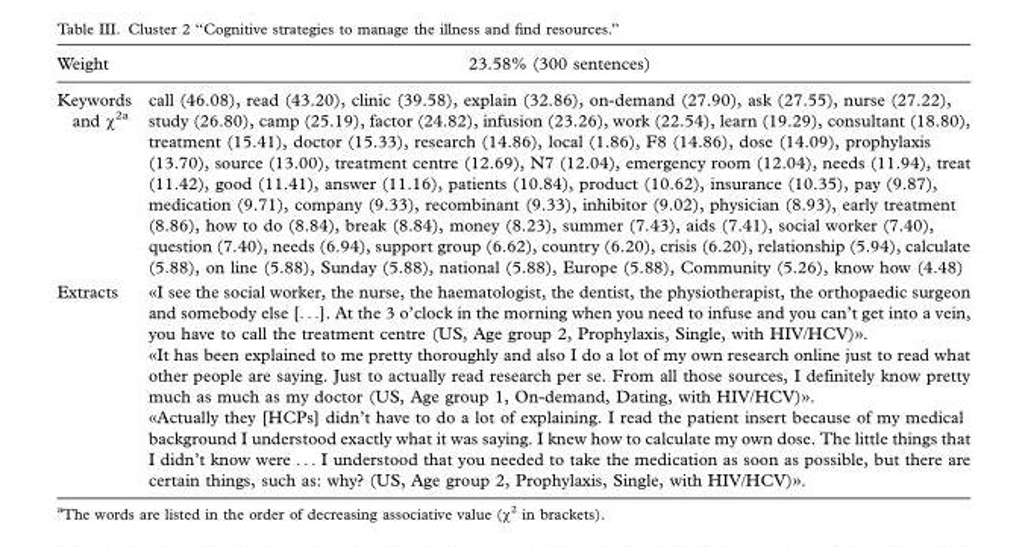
<table><thead><tr><td>Weight</td><td>23.58% (300 sentences)</td></tr></thead><tbody><tr><td>Keywords and χ<sup>2</sup>a</td><td>call (46.08), read (43.20), clinic (39.58), explain (32.86), on-demand (27.90), ask (27.55), nurse (27.22), study (26.80), camp (25.19), factor (24.82), infusion (23.26), work (22.54), learn (19.29), consultant (18.80), treatment (15.41), doctor (15.33), research (14.86), local (1.86), F8 (14.86), dose (14.09), prophylaxis (13.70), source (13.00), treatment centre (12.69), N7 (12.04), emergency room (12.04), needs (11.94), treat (11.42), good (11.41), answer (11.16), patients (10.84), product (10.62), insurance (10.35), pay (9.87), medication (9.71), company (9.33), recombinant (9.33), inhibitor (9.02), physician (8.93), early treatment (8.86), how to do (8.84), break (8.84), money (8.23), summer (7.43), aids (7.41), social worker (7.40), question (7.40), needs (6.94), support group (6.62), country (6.20), crisis (6.20), relationship (5.94), calculate (5.88), on line (5.88), Sunday (5.88), national (5.88), Europe (5.88), Community (5.26), know how (4.48)</td></tr><tr><td>Extracts</td><td>«I see the social worker, the nurse, the haematologist, the dentist, the physiotherapist, the orthopaedic surgeon and somebody else [. . .]. At the 3 o’clock in the morning when you need to infuse and you can’t get into a vein, you have to call the treatment centre (US, Age group 2, Prophylaxis, Single, with HIV/HCV)». «It has been explained to me pretty thoroughly and also I do a lot of my own research online just to read what other people are saying. Just to actually read research per se. From all those sources, I definitely know pretty much as much as my doctor (US, Age group 1, On-demand, Dating, with HIV/HCV)». «Actually they [HCPs] didn’t have to do a lot of explaining. I read the patient insert because of my medical background I understood exactly what it was saying. I knew how to calculate my own dose. The little things that I didn’t know were . . . I understood that you needed to take the medication as soon as possible, but there are certain things, such as: why? (US, Age group 2, Prophylaxis, Single, with HIV/HCV)».</td></tr></tbody></table>